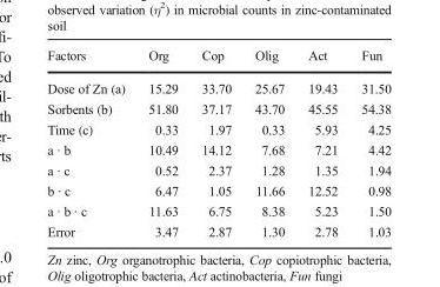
<table><thead><tr><td>Factors</td><td>Org</td><td>Cop</td><td>Olig</td><td>Act</td><td>Fun</td></tr></thead><tbody><tr><td>Dose of Zn (a)</td><td>15.29</td><td>33.70</td><td>25.67</td><td>19.43</td><td>31.50</td></tr><tr><td>Sorbents (b)</td><td>51.80</td><td>37.17</td><td>43.70</td><td>45.55</td><td>54.38</td></tr><tr><td>Time (c)</td><td>0.33</td><td>1.97</td><td>0.33</td><td>5.93</td><td>4.25</td></tr><tr><td>a · b</td><td>10.49</td><td>14.12</td><td>7.68</td><td>7.21</td><td>4.42</td></tr><tr><td>a · c</td><td>0.52</td><td>2.37</td><td>1.28</td><td>1.35</td><td>1.94</td></tr><tr><td>b · c</td><td>6.47</td><td>1.05</td><td>11.66</td><td>12.52</td><td>0.98</td></tr><tr><td>a · b · c</td><td>11.63</td><td>6.75</td><td>8.38</td><td>5.23</td><td>1.50</td></tr><tr><td>Error</td><td>3.47</td><td>2.87</td><td>1.30</td><td>2.78</td><td>1.03</td></tr></tbody></table>